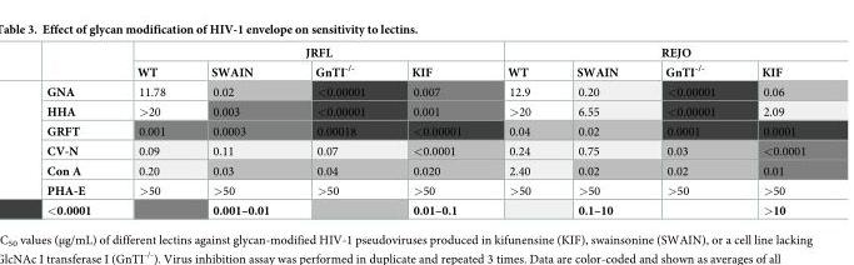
<table><thead><tr><td rowspan="2"></td><td colspan="4">JRFL</td><td colspan="4">REJO</td></tr><tr><td>WT</td><td>SWAIN</td><td>GnTI<sup>-/-</sup></td><td>KIF</td><td>WT</td><td>SWAIN</td><td>GnTI<sup>-/-</sup></td><td>KIF</td></tr></thead><tbody><tr><td>GNA</td><td>11.78</td><td>0.02</td><td>&lt;0.00001</td><td>0.007</td><td>12.9</td><td>0.20</td><td>&lt;0.00001</td><td>0.06</td></tr><tr><td>HHA</td><td>&gt;20</td><td>0.003</td><td>&lt;0.00001</td><td>0.001</td><td>&gt;20</td><td>6.55</td><td>&lt;0.00001</td><td>2.09</td></tr><tr><td>GRFT</td><td>0.001</td><td>0.0003</td><td>0.00018</td><td>&lt;0.00001</td><td>0.04</td><td>0.02</td><td>0.0001</td><td>0.0001</td></tr><tr><td>CV-N</td><td>0.09</td><td>0.11</td><td>0.07</td><td>&lt;0.0001</td><td>0.24</td><td>0.75</td><td>0.03</td><td>&lt;0.0001</td></tr><tr><td>Con A</td><td>0.20</td><td>0.03</td><td>0.04</td><td>0.020</td><td>2.40</td><td>0.02</td><td>0.02</td><td>0.01</td></tr><tr><td>PHA-E</td><td>&gt;50</td><td>&gt;50</td><td>&gt;50</td><td>&gt;50</td><td>&gt;50</td><td>&gt;50</td><td>&gt;50</td><td>&gt;50</td></tr><tr><td>&lt;0.0001</td><td></td><td>0.001–0.01</td><td></td><td>0.01–0.1</td><td></td><td>0.1–10</td><td></td><td>&gt;10</td></tr></tbody></table>